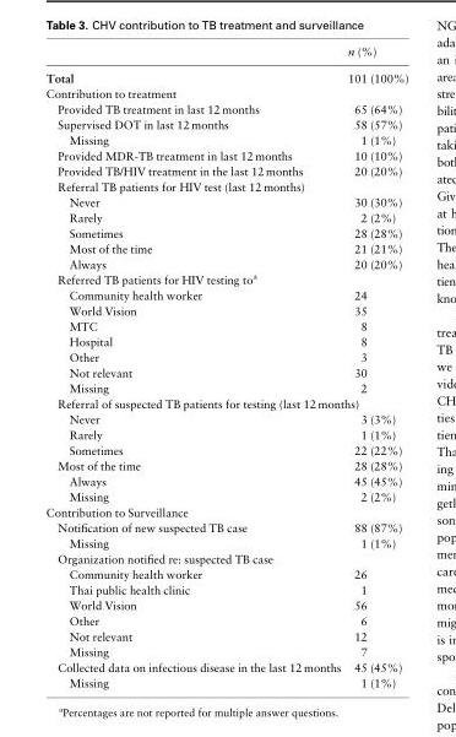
<table><thead><tr><td></td><td>n (%)</td></tr></thead><tbody><tr><td>Total</td><td>101 (100%)</td></tr><tr><td colspan="2">Contribution to treatment</td></tr><tr><td>Provided TB treatment in last 12 months</td><td>65 (64%)</td></tr><tr><td>Supervised DOT in last 12 months</td><td>58 (57%)</td></tr><tr><td>Missing</td><td>1 (1%)</td></tr><tr><td>Provided MDR-TB treatment in last 12 months</td><td>10 (10%)</td></tr><tr><td>Provided TB/HIV treatment in the last 12 months</td><td>20 (20%)</td></tr><tr><td colspan="2">Referral TB patients for HIV test (last 12 months)</td></tr><tr><td>Never</td><td>30 (30%)</td></tr><tr><td>Rarely</td><td>2 (2%)</td></tr><tr><td>Sometimes</td><td>28 (28%)</td></tr><tr><td>Most of the time</td><td>21 (21%)</td></tr><tr><td>Always</td><td>20 (20%)</td></tr><tr><td colspan="2">Referred TB patients for HIV testing to<sup>a</sup></td></tr><tr><td>Community health worker</td><td>24</td></tr><tr><td>World Vision</td><td>35</td></tr><tr><td>MTC</td><td>8</td></tr><tr><td>Hospital</td><td>8</td></tr><tr><td>Other</td><td>3</td></tr><tr><td>Not relevant</td><td>30</td></tr><tr><td>Missing</td><td>2</td></tr><tr><td colspan="2">Referral of suspected TB patients for testing (last 12 months)</td></tr><tr><td>Never</td><td>3 (3%)</td></tr><tr><td>Rarely</td><td>1 (1%)</td></tr><tr><td>Sometimes</td><td>22 (22%)</td></tr><tr><td>Most of the time</td><td>28 (28%)</td></tr><tr><td>Always</td><td>45 (45%)</td></tr><tr><td>Missing</td><td>2 (2%)</td></tr><tr><td colspan="2">Contribution to Surveillance</td></tr><tr><td>Notification of new suspected TB case</td><td>88 (87%)</td></tr><tr><td>Missing</td><td>1 (1%)</td></tr><tr><td colspan="2">Organization notified re: suspected TB case</td></tr><tr><td>Community health worker</td><td>26</td></tr><tr><td>Thai public health clinic</td><td>1</td></tr><tr><td>World Vision</td><td>56</td></tr><tr><td>Other</td><td>6</td></tr><tr><td>Not relevant</td><td>12</td></tr><tr><td>Missing</td><td>7</td></tr><tr><td>Collected data on infectious disease in the last 12 months</td><td>45 (45%)</td></tr><tr><td>Missing</td><td>1 (1%)</td></tr></tbody></table>